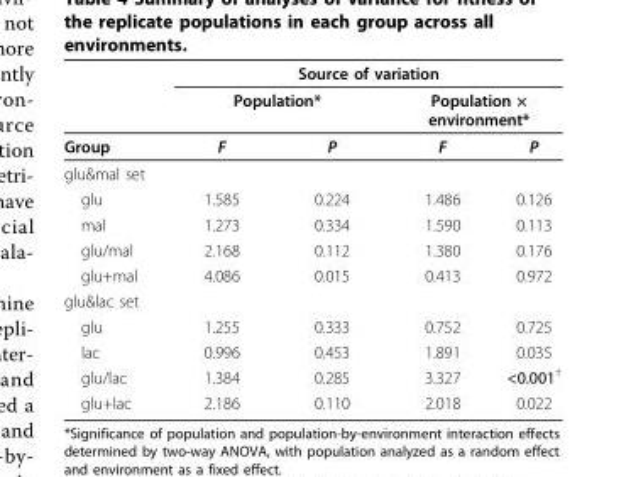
<table><thead><tr><td rowspan="3">Group</td><td colspan="4">Source of variation</td></tr><tr><td colspan="2">Population*</td><td colspan="2">Population × environment*</td></tr><tr><td>F</td><td>P</td><td>F</td><td>P</td></tr></thead><tbody><tr><td colspan="5">glu&amp;mal set</td></tr><tr><td>glu</td><td>1.585</td><td>0.224</td><td>1.486</td><td>0.126</td></tr><tr><td>mal</td><td>1.273</td><td>0.334</td><td>1.590</td><td>0.113</td></tr><tr><td>glu/mal</td><td>2.168</td><td>0.112</td><td>1.380</td><td>0.176</td></tr><tr><td>glu+mal</td><td>4.086</td><td>0.015</td><td>0.413</td><td>0.972</td></tr><tr><td colspan="5">glu&amp;lac set</td></tr><tr><td>glu</td><td>1.255</td><td>0.333</td><td>0.752</td><td>0.725</td></tr><tr><td>lac</td><td>0.996</td><td>0.453</td><td>1.891</td><td>0.035</td></tr><tr><td>glu/lac</td><td>1.384</td><td>0.285</td><td>3.327</td><td>&lt;0.001<sup>†</sup></td></tr><tr><td>glu+lac</td><td>2.186</td><td>0.110</td><td>2.018</td><td>0.022</td></tr></tbody></table>